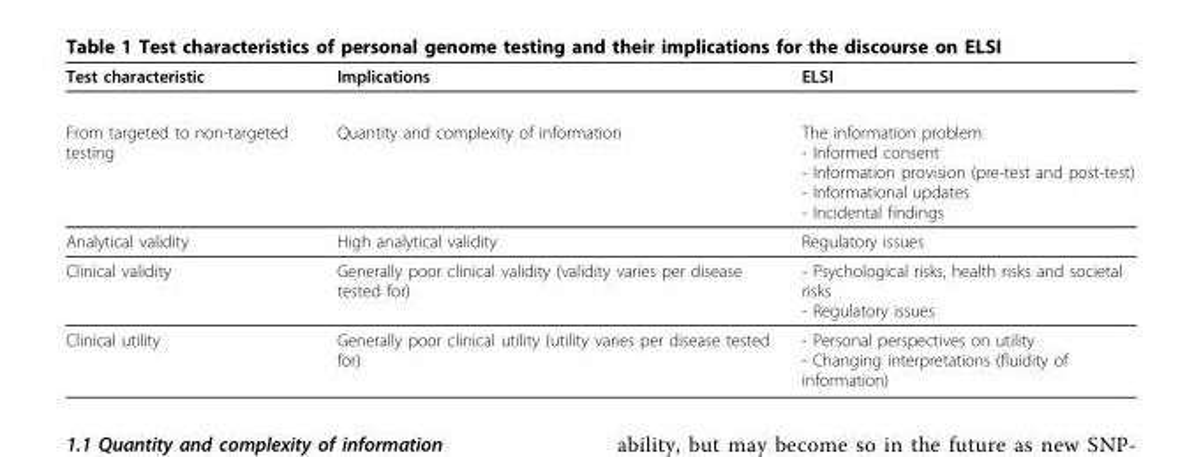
<table><thead><tr><td>Test characteristic</td><td>Implications</td><td>ELSI</td></tr></thead><tbody><tr><td>From targeted to non-targeted testing</td><td>Quantity and complexity of information</td><td>The information problem - Informed consent - Information provision (pre-test and post-test) - Informational updates - Incidental findings</td></tr><tr><td>Analytical validity</td><td>High analytical validity</td><td>Regulatory issues</td></tr><tr><td>Clinical validity</td><td>Generally poor clinical validity (validity varies per disease tested for)</td><td>- Psychological risks, health risks and societal risks - Regulatory issues</td></tr><tr><td>Clinical utility</td><td>Generally poor clinical utility (utility varies per disease tested for)</td><td>- Personal perspectives on utility - Changing interpretations (fluidity of information)</td></tr></tbody></table>